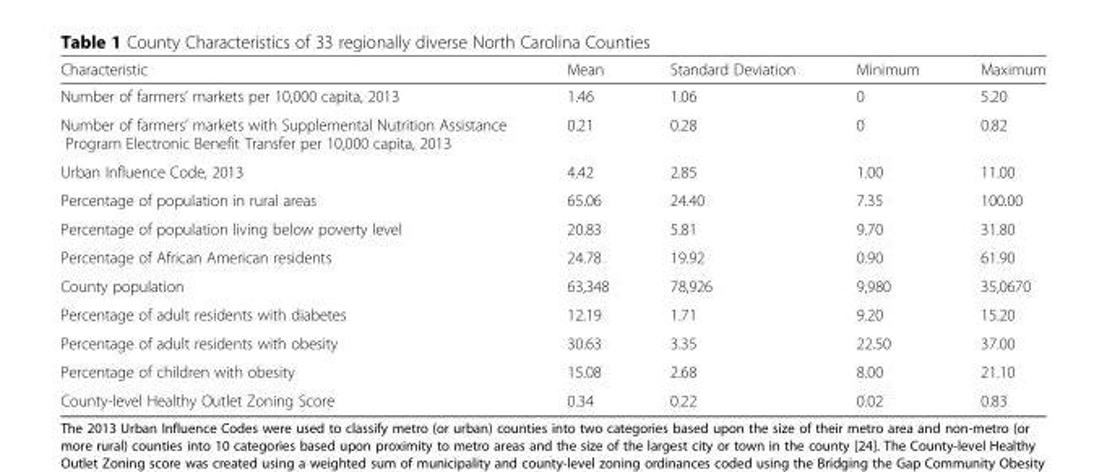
<table><thead><tr><td>Characteristic</td><td>Mean</td><td>Standard Deviation</td><td>Minimum</td><td>Maximum</td></tr></thead><tbody><tr><td>Number of farmers’ markets per 10,000 capita, 2013</td><td>1.46</td><td>1.06</td><td>0</td><td>5.20</td></tr><tr><td>Number of farmers’ markets with Supplemental Nutrition Assistance Program Electronic Benefit Transfer per 10,000 capita, 2013</td><td>0.21</td><td>0.28</td><td>0</td><td>0.82</td></tr><tr><td>Urban Influence Code, 2013</td><td>4.42</td><td>2.85</td><td>1.00</td><td>11.00</td></tr><tr><td>Percentage of population in rural areas</td><td>65.06</td><td>24.40</td><td>7.35</td><td>100.00</td></tr><tr><td>Percentage of population living below poverty level</td><td>20.83</td><td>5.81</td><td>9.70</td><td>31.80</td></tr><tr><td>Percentage of African American residents</td><td>24.78</td><td>19.92</td><td>0.90</td><td>61.90</td></tr><tr><td>County population</td><td>63,348</td><td>78,926</td><td>9,980</td><td>35,0670</td></tr><tr><td>Percentage of adult residents with diabetes</td><td>12.19</td><td>1.71</td><td>9.20</td><td>15.20</td></tr><tr><td>Percentage of adult residents with obesity</td><td>30.63</td><td>3.35</td><td>22.50</td><td>37.00</td></tr><tr><td>Percentage of children with obesity</td><td>15.08</td><td>2.68</td><td>8.00</td><td>21.10</td></tr><tr><td>County-level Healthy Outlet Zoning Score</td><td>0.34</td><td>0.22</td><td>0.02</td><td>0.83</td></tr></tbody></table>